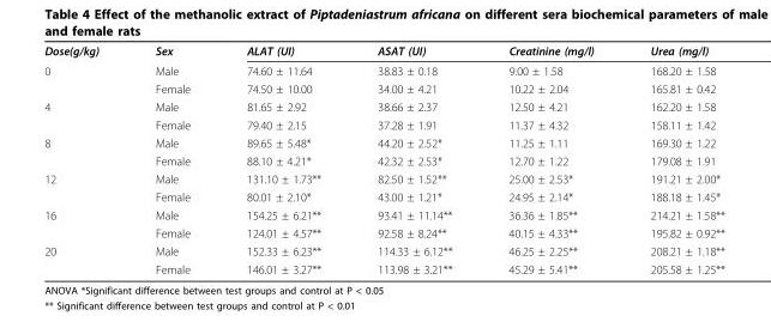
<table><tbody><tr><td>Dose(g/kg)</td><td>Sex</td><td>ALAT (UI)</td><td>ASAT (UI)</td><td>Creatinine (mg/l)</td><td>Urea (mg/l)</td></tr><tr><td rowspan="2">0</td><td>Male</td><td>74.60 ± 11.64</td><td>38.83 ± 0.18</td><td>9.00 ± 1.58</td><td>168.20 ± 1.58</td></tr><tr><td>Female</td><td>74.50 ± 10.00</td><td>34.00 ± 4.21</td><td>10.22 ± 2.04</td><td>165.81 ± 0.42</td></tr><tr><td rowspan="2">4</td><td>Male</td><td>81.65 ± 2.92</td><td>38.66 ± 2.37</td><td>12.50 ± 4.21</td><td>162.20 ± 1.58</td></tr><tr><td>Female</td><td>79.40 ± 2.15</td><td>37.28 ± 1.91</td><td>11.37 ± 4.32</td><td>158.11 ± 1.42</td></tr><tr><td rowspan="2">8</td><td>Male</td><td>89.65 ± 5.48*</td><td>44.20 ± 2.52*</td><td>11.25 ± 1.11</td><td>169.30 ± 1.22</td></tr><tr><td>Female</td><td>88.10 ± 4.21*</td><td>42.32 ± 2.53*</td><td>12.70 ± 1.22</td><td>179.08 ± 1.91</td></tr><tr><td rowspan="2">12</td><td>Male</td><td>131.10 ± 1.73**</td><td>82.50 ± 1.52**</td><td>25.00 ± 2.53*</td><td>191.21 ± 2.00*</td></tr><tr><td>Female</td><td>80.01 ± 2.10*</td><td>43.00 ± 1.21*</td><td>24.95 ± 2.14*</td><td>188.18 ± 1.45*</td></tr><tr><td rowspan="2">16</td><td>Male</td><td>154.25 ± 6.21**</td><td>93.41 ± 11.14**</td><td>36.36 ± 1.85**</td><td>214.21 ± 1.58**</td></tr><tr><td>Female</td><td>124.01 ± 4.57**</td><td>92.58 ± 8.24**</td><td>40.15 ± 4.33**</td><td>195.82 ± 0.92**</td></tr><tr><td rowspan="2">20</td><td>Male</td><td>152.33 ± 6.23**</td><td>114.33 ± 6.12**</td><td>46.25 ± 2.25**</td><td>208.21 ± 1.18**</td></tr><tr><td>Female</td><td>146.01 ± 3.27**</td><td>113.98 ± 3.21**</td><td>45.29 ± 5.41**</td><td>205.58 ± 1.25**</td></tr></tbody></table>